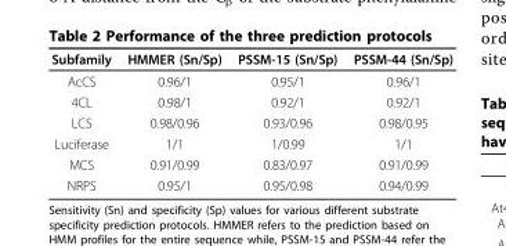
<table><thead><tr><td>Subfamily</td><td>HMMER (Sn/Sp)</td><td>PSSM-15 (Sn/Sp)</td><td>PSSM-44 (Sn/Sp)</td></tr></thead><tbody><tr><td>AcCS</td><td>0.96/1</td><td>0.95/1</td><td>0.96/1</td></tr><tr><td>4CL</td><td>0.98/1</td><td>0.92/1</td><td>0.92/1</td></tr><tr><td>LCS</td><td>0.98/0.96</td><td>0.93/0.96</td><td>0.98/0.95</td></tr><tr><td>Luciferase</td><td>1/1</td><td>1/0.99</td><td>1/1</td></tr><tr><td>MCS</td><td>0.91/0.99</td><td>0.83/0.97</td><td>0.91/0.99</td></tr><tr><td>NRPS</td><td>0.95/1</td><td>0.95/0.98</td><td>0.94/0.99</td></tr></tbody></table>